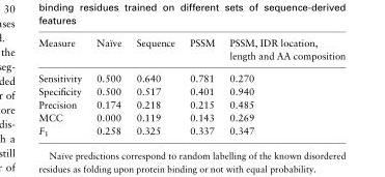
<table><thead><tr><td>Measure</td><td>Naı¨ve</td><td>Sequence</td><td>PSSM</td><td>PSSM, IDR location, length and AA composition</td></tr></thead><tbody><tr><td>Sensitivity</td><td>0.500</td><td>0.640</td><td>0.781</td><td>0.270</td></tr><tr><td>Specificity</td><td>0.500</td><td>0.517</td><td>0.401</td><td>0.940</td></tr><tr><td>Precision</td><td>0.174</td><td>0.218</td><td>0.215</td><td>0.485</td></tr><tr><td>MCC</td><td>0.000</td><td>0.119</td><td>0.143</td><td>0.269</td></tr><tr><td>F<sub>1</sub></td><td>0.258</td><td>0.325</td><td>0.337</td><td>0.347</td></tr></tbody></table>